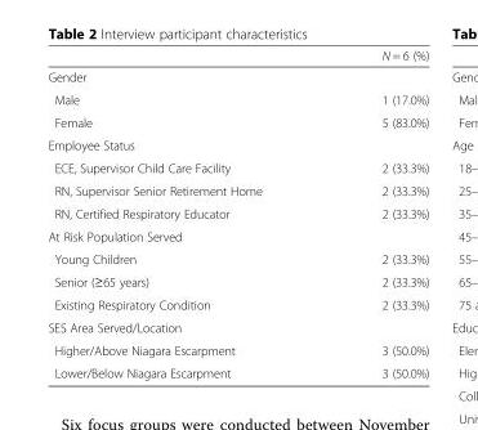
<table><thead><tr><td></td><td>N = 6 (%)</td></tr></thead><tbody><tr><td colspan="2">Gender</td></tr><tr><td>Male</td><td>1 (17.0%)</td></tr><tr><td>Female</td><td>5 (83.0%)</td></tr><tr><td colspan="2">Employee Status</td></tr><tr><td>ECE, Supervisor Child Care Facility</td><td>2 (33.3%)</td></tr><tr><td>RN, Supervisor Senior Retirement Home</td><td>2 (33.3%)</td></tr><tr><td>RN, Certified Respiratory Educator</td><td>2 (33.3%)</td></tr><tr><td colspan="2">At Risk Population Served</td></tr><tr><td>Young Children</td><td>2 (33.3%)</td></tr><tr><td>Senior (≥65 years)</td><td>2 (33.3%)</td></tr><tr><td>Existing Respiratory Condition</td><td>2 (33.3%)</td></tr><tr><td colspan="2">SES Area Served/Location</td></tr><tr><td>Higher/Above Niagara Escarpment</td><td>3 (50.0%)</td></tr><tr><td>Lower/Below Niagara Escarpment</td><td>3 (50.0%)</td></tr></tbody></table>